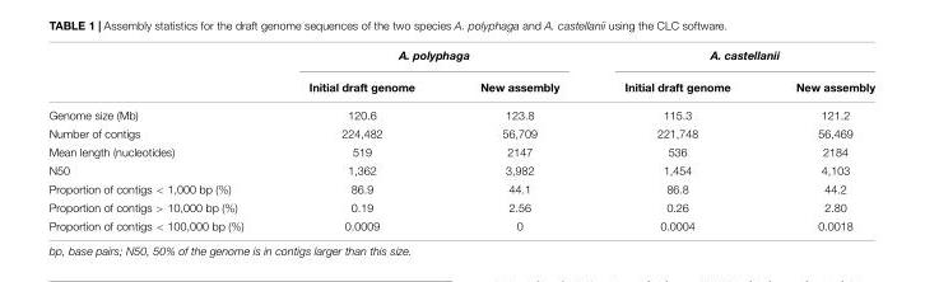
<table><thead><tr><td rowspan="2"></td><td colspan="2">A. polyphaga</td><td colspan="2">A. castellanii</td></tr><tr><td>Initial draft genome</td><td>New assembly</td><td>Initial draft genome</td><td>New assembly</td></tr></thead><tbody><tr><td>Genome size (Mb)</td><td>120.6</td><td>123.8</td><td>115.3</td><td>121.2</td></tr><tr><td>Number of contigs</td><td>224,482</td><td>56,709</td><td>221,748</td><td>56,469</td></tr><tr><td>Mean length (nucleotides)</td><td>519</td><td>2147</td><td>536</td><td>2184</td></tr><tr><td>N50</td><td>1,362</td><td>3,982</td><td>1,454</td><td>4,103</td></tr><tr><td>Proportion of contigs &lt; 1,000 bp (%)</td><td>86.9</td><td>44.1</td><td>86.8</td><td>44.2</td></tr><tr><td>Proportion of contigs &gt; 10,000 bp (%)</td><td>0.19</td><td>2.56</td><td>0.26</td><td>2.80</td></tr><tr><td>Proportion of contigs &lt; 100,000 bp (%)</td><td>0.0009</td><td>0</td><td>0.0004</td><td>0.0018</td></tr></tbody></table>